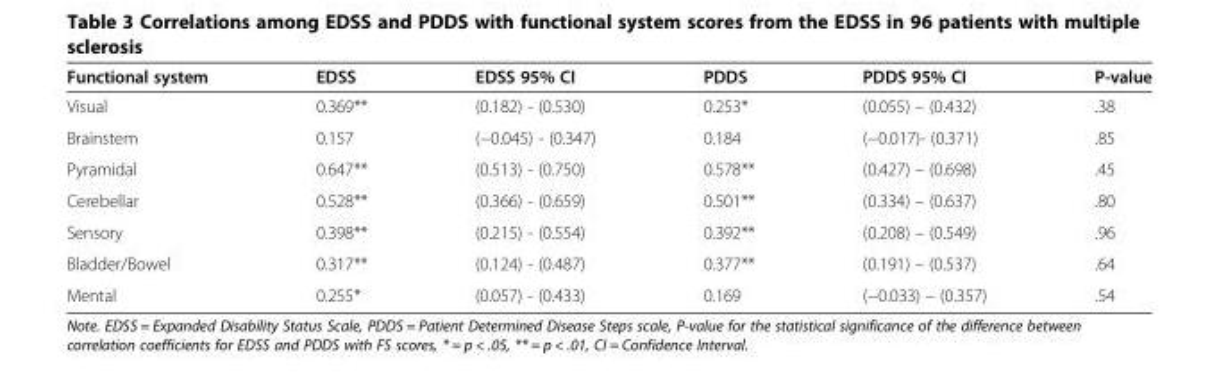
<table><thead><tr><td>Functional system</td><td>EDSS</td><td>EDSS 95% CI</td><td>PDDS</td><td>PDDS 95% CI</td><td>P-value</td></tr></thead><tbody><tr><td>Visual</td><td>0.369**</td><td>(0.182) - (0.530)</td><td>0.253*</td><td>(0.055) – (0.432)</td><td>.38</td></tr><tr><td>Brainstem</td><td>0.157</td><td>(−0.045) - (0.347)</td><td>0.184</td><td>(−0.017)- (0.371)</td><td>.85</td></tr><tr><td>Pyramidal</td><td>0.647**</td><td>(0.513) - (0.750)</td><td>0.578**</td><td>(0.427) – (0.698)</td><td>.45</td></tr><tr><td>Cerebellar</td><td>0.528**</td><td>(0.366) - (0.659)</td><td>0.501**</td><td>(0.334) – (0.637)</td><td>.80</td></tr><tr><td>Sensory</td><td>0.398**</td><td>(0.215) - (0.554)</td><td>0.392**</td><td>(0.208) – (0.549)</td><td>.96</td></tr><tr><td>Bladder/Bowel</td><td>0.317**</td><td>(0.124) - (0.487)</td><td>0.377**</td><td>(0.191) – (0.537)</td><td>.64</td></tr><tr><td>Mental</td><td>0.255*</td><td>(0.057) - (0.433)</td><td>0.169</td><td>(−0.033) – (0.357)</td><td>.54</td></tr></tbody></table>